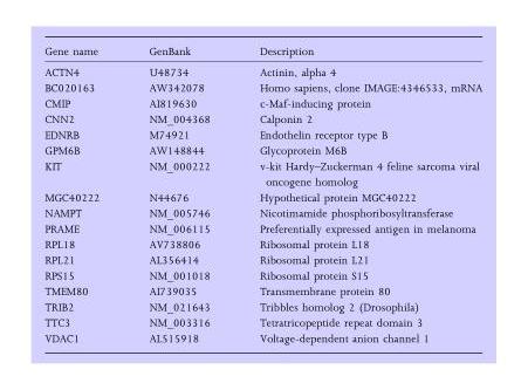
<table><thead><tr><td>Gene name</td><td>GenBank</td><td>Description</td></tr></thead><tbody><tr><td>ACTN4</td><td>U48734</td><td>Actinin, alpha 4</td></tr><tr><td>BC020163</td><td>AW342078</td><td>Homo sapiens, clone IMAGE:4346533, mRNA</td></tr><tr><td>CMIP</td><td>AI819630</td><td>c-Maf-inducing protein</td></tr><tr><td>CNN2</td><td>NM_004368</td><td>Calponin 2</td></tr><tr><td>EDNRB</td><td>M74921</td><td>Endothelin receptor type B</td></tr><tr><td>GPM6B</td><td>AW148844</td><td>Glycoprotein M6B</td></tr><tr><td>KIT</td><td>NM_000222</td><td>v-kit Hardy–Zuckerman 4 feline sarcoma viral oncogene homolog</td></tr><tr><td>MGC40222</td><td>N44676</td><td>Hypothetical protein MGC40222</td></tr><tr><td>NAMPT</td><td>NM_005746</td><td>Nicotimamide phosphoribosyltransferase</td></tr><tr><td>PRAME</td><td>NM_006115</td><td>Preferentially expressed antigen in melanoma</td></tr><tr><td>RPL18</td><td>AV738806</td><td>Ribosomal protein L18</td></tr><tr><td>RPL21</td><td>AL356414</td><td>Ribosomal protein L21</td></tr><tr><td>RPS15</td><td>NM_001018</td><td>Ribosomal protein S15</td></tr><tr><td>TMEM80</td><td>AI739035</td><td>Transmembrane protein 80</td></tr><tr><td>TRIB2</td><td>NM_021643</td><td>Tribbles homolog 2 (Drosophila)</td></tr><tr><td>TTC3</td><td>NM_003316</td><td>Tetratricopeptide repeat domain 3</td></tr><tr><td>VDAC1</td><td>AL515918</td><td>Voltage-dependent anion channel 1</td></tr></tbody></table>